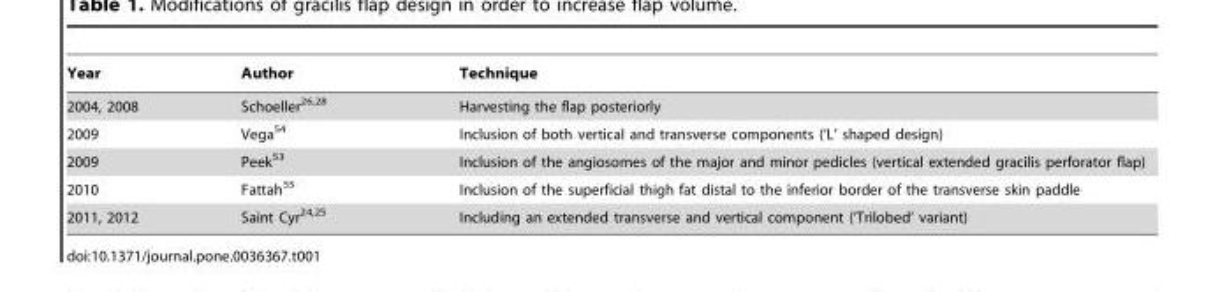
<table><thead><tr><td>Year</td><td>Author</td><td>Technique</td></tr></thead><tbody><tr><td>2004, 2008</td><td>Schoeller<sup>26,28</sup></td><td>Harvesting the flap posteriorly</td></tr><tr><td>2009</td><td>Vega<sup>54</sup></td><td>Inclusion of both vertical and transverse components (‘L’ shaped design)</td></tr><tr><td>2009</td><td>Peek<sup>53</sup></td><td>Inclusion of the angiosomes of the major and minor pedicles (vertical extended gracilis perforator flap)</td></tr><tr><td>2010</td><td>Fattah<sup>55</sup></td><td>Inclusion of the superficial thigh fat distal to the inferior border of the transverse skin paddle</td></tr><tr><td>2011, 2012</td><td>Saint Cyr<sup>24,25</sup></td><td>Including an extended transverse and vertical component (‘Trilobed’ variant)</td></tr></tbody></table>